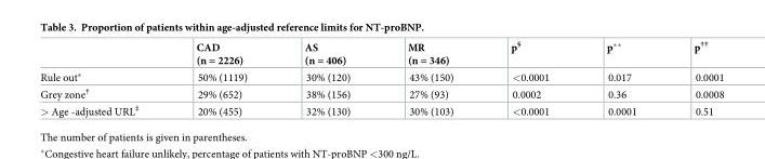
<table><thead><tr><td></td><td>CAD (n = 2226)</td><td>AS (n = 406)</td><td>MR (n = 346)</td><td>p<sup>§</sup></td><td>p**</td><td>p<sup>††</sup></td></tr></thead><tbody><tr><td>Rule out*</td><td>50% (1119)</td><td>30% (120)</td><td>43% (150)</td><td>&lt;0.0001</td><td>0.017</td><td>0.0001</td></tr><tr><td>Grey zone<sup>†</sup></td><td>29% (652)</td><td>38% (156)</td><td>27% (93)</td><td>0.0002</td><td>0.36</td><td>0.0008</td></tr><tr><td>&gt; Age -adjusted URL<sup>‡</sup></td><td>20% (455)</td><td>32% (130)</td><td>30% (103)</td><td>&lt;0.0001</td><td>0.0001</td><td>0.51</td></tr></tbody></table>